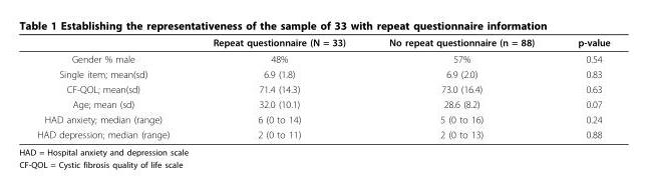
<table><thead><tr><td></td><td>Repeat questionnaire (N = 33)</td><td>No repeat questionnaire (n = 88)</td><td>p-value</td></tr></thead><tbody><tr><td>Gender % male</td><td>48%</td><td>57%</td><td>0.54</td></tr><tr><td>Single item; mean(sd)</td><td>6.9 (1.8)</td><td>6.9 (2.0)</td><td>0.83</td></tr><tr><td>CF-QOL; mean(sd)</td><td>71.4 (14.3)</td><td>73.0 (16.4)</td><td>0.63</td></tr><tr><td>Age; mean (sd)</td><td>32.0 (10.1)</td><td>28.6 (8.2)</td><td>0.07</td></tr><tr><td>HAD anxiety; median (range)</td><td>6 (0 to 14)</td><td>5 (0 to 16)</td><td>0.24</td></tr><tr><td>HAD depression; median (range)</td><td>2 (0 to 11)</td><td>2 (0 to 13)</td><td>0.88</td></tr></tbody></table>